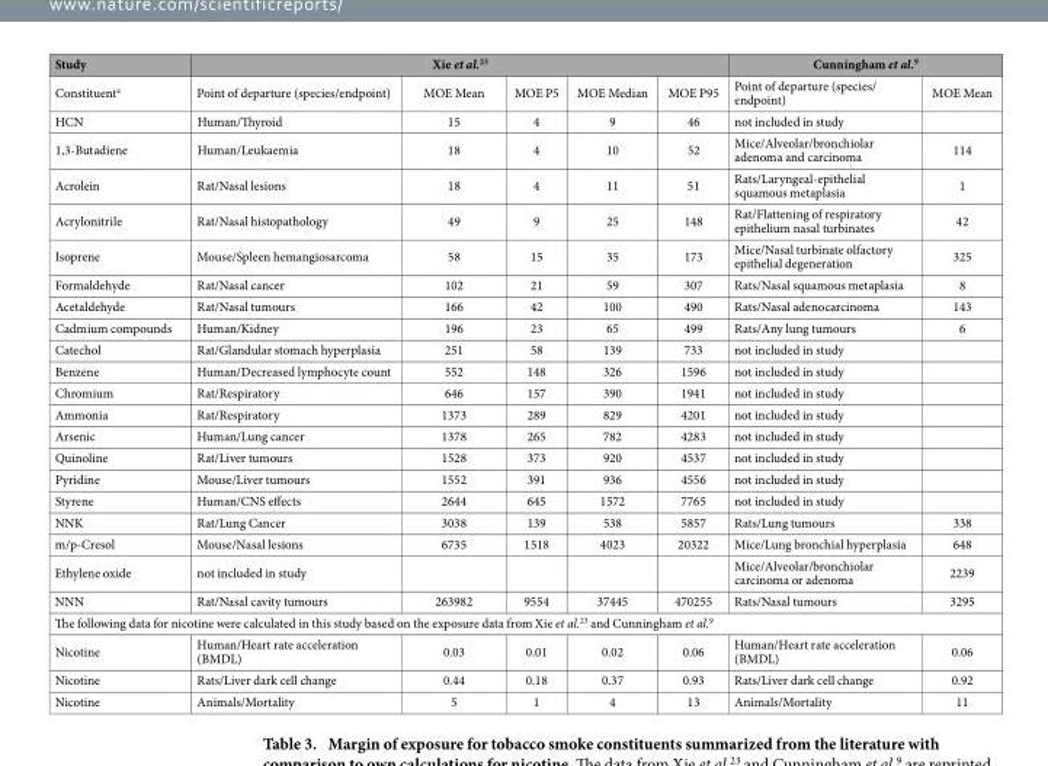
<table><thead><tr><td rowspan="2">Study Constituent<sup>a</sup></td><td colspan="5">Xie et al.<sup>23</sup></td><td colspan="2">Cunningham et al.<sup>9</sup></td></tr><tr><td>Point of departure (species/endpoint)</td><td>MOE Mean</td><td>MOE P5</td><td>MOE Median</td><td>MOE P95</td><td>Point of departure (species/ endpoint)</td><td>MOE Mean</td></tr></thead><tbody><tr><td>HCN</td><td>Human/Thyroid</td><td>15</td><td>4</td><td>9</td><td>46</td><td>not included in study</td><td></td></tr><tr><td>1,3-Butadiene</td><td>Human/Leukaemia</td><td>18</td><td>4</td><td>10</td><td>52</td><td>Mice/Alveolar/bronchiolar adenoma and carcinoma</td><td>114</td></tr><tr><td>Acrolein</td><td>Rat/Nasal lesions</td><td>18</td><td>4</td><td>11</td><td>51</td><td>Rats/Laryngeal-epithelial squamous metaplasia</td><td>1</td></tr><tr><td>Acrylonitrile</td><td>Rat/Nasal histopathology</td><td>49</td><td>9</td><td>25</td><td>148</td><td>Rat/Flattening of respiratory epithelium nasal turbinates</td><td>42</td></tr><tr><td>Isoprene</td><td>Mouse/Spleen hemangiosarcoma</td><td>58</td><td>15</td><td>35</td><td>173</td><td>Mice/Nasal turbinate olfactory epithelial degeneration</td><td>325</td></tr><tr><td>Formaldehyde</td><td>Rat/Nasal cancer</td><td>102</td><td>21</td><td>59</td><td>307</td><td>Rats/Nasal squamous metaplasia</td><td>8</td></tr><tr><td>Acetaldehyde</td><td>Rat/Nasal tumours</td><td>166</td><td>42</td><td>100</td><td>490</td><td>Rats/Nasal adenocarcinoma</td><td>143</td></tr><tr><td>Cadmium compounds</td><td>Human/Kidney</td><td>196</td><td>23</td><td>65</td><td>499</td><td>Rats/Any lung tumours</td><td>6</td></tr><tr><td>Catechol</td><td>Rat/Glandular stomach hyperplasia</td><td>251</td><td>58</td><td>139</td><td>733</td><td>not included in study</td><td></td></tr><tr><td>Benzene</td><td>Human/Decreased lymphocyte count</td><td>552</td><td>148</td><td>326</td><td>1596</td><td>not included in study</td><td></td></tr><tr><td>Chromium</td><td>Rat/Respiratory</td><td>646</td><td>157</td><td>390</td><td>1941</td><td>not included in study</td><td></td></tr><tr><td>Ammonia</td><td>Rat/Respiratory</td><td>1373</td><td>289</td><td>829</td><td>4201</td><td>not included in study</td><td></td></tr><tr><td>Arsenic</td><td>Human/Lung cancer</td><td>1378</td><td>265</td><td>782</td><td>4283</td><td>not included in study</td><td></td></tr><tr><td>Quinoline</td><td>Rat/Liver tumours</td><td>1528</td><td>373</td><td>920</td><td>4537</td><td>not included in study</td><td></td></tr><tr><td>Pyridine</td><td>Mouse/Liver tumours</td><td>1552</td><td>391</td><td>936</td><td>4556</td><td>not included in study</td><td></td></tr><tr><td>Styrene</td><td>Human/CNS effects</td><td>2644</td><td>645</td><td>1572</td><td>7765</td><td>not included in study</td><td></td></tr><tr><td>NNK</td><td>Rat/Lung Cancer</td><td>3038</td><td>139</td><td>538</td><td>5857</td><td>Rats/Lung tumours</td><td>338</td></tr><tr><td>m/p-Cresol</td><td>Mouse/Nasal lesions</td><td>6735</td><td>1518</td><td>4023</td><td>20322</td><td>Mice/Lung bronchial hyperplasia</td><td>648</td></tr><tr><td>Ethylene oxide</td><td>not included in study</td><td></td><td></td><td></td><td></td><td>Mice/Alveolar/bronchiolar carcinoma or adenoma</td><td>2239</td></tr><tr><td>NNN</td><td>Rat/Nasal cavity tumours</td><td>263982</td><td>9554</td><td>37445</td><td>470255</td><td>Rats/Nasal tumours</td><td>3295</td></tr><tr><td colspan="8">The following data for nicotine were calculated in this study based on the exposure data from Xie et al.<sup>23</sup> and Cunningham et al.<sup>9</sup></td></tr><tr><td>Nicotine</td><td>Human/Heart rate acceleration (BMDL)</td><td>0.03</td><td>0.01</td><td>0.02</td><td>0.06</td><td>Human/Heart rate acceleration (BMDL)</td><td>0.06</td></tr><tr><td>Nicotine</td><td>Rats/Liver dark cell change</td><td>0.44</td><td>0.18</td><td>0.37</td><td>0.93</td><td>Rats/Liver dark cell change</td><td>0.92</td></tr><tr><td>Nicotine</td><td>Animals/Mortality</td><td>5</td><td>1</td><td>4</td><td>13</td><td>Animals/Mortality</td><td>11</td></tr></tbody></table>